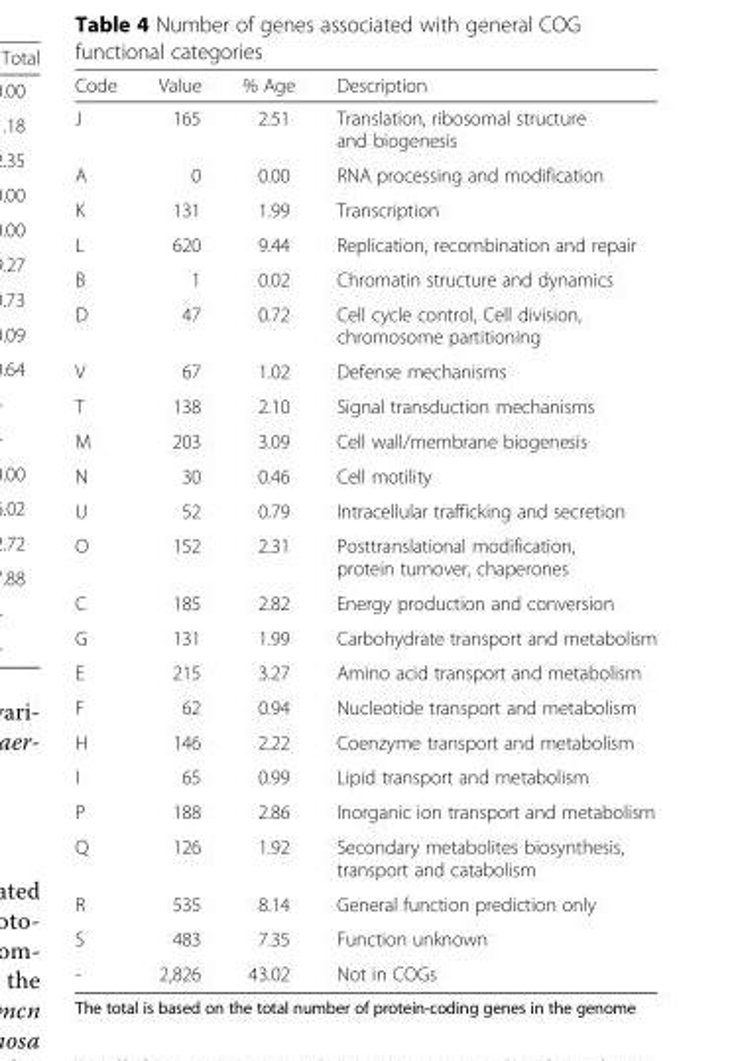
<table><thead><tr><td>Code</td><td>Value</td><td>% Age</td><td>Description</td></tr></thead><tbody><tr><td>J</td><td>165</td><td>2.51</td><td>Translation, ribosomal structure and biogenesis</td></tr><tr><td>A</td><td>0</td><td>0.00</td><td>RNA processing and modification</td></tr><tr><td>K</td><td>131</td><td>1.99</td><td>Transcription</td></tr><tr><td>L</td><td>620</td><td>9.44</td><td>Replication, recombination and repair</td></tr><tr><td>B</td><td>1</td><td>0.02</td><td>Chromatin structure and dynamics</td></tr><tr><td>D</td><td>47</td><td>0.72</td><td>Cell cycle control, Cell division, chromosome partitioning</td></tr><tr><td>V</td><td>67</td><td>1.02</td><td>Defense mechanisms</td></tr><tr><td>T</td><td>138</td><td>2.10</td><td>Signal transduction mechanisms</td></tr><tr><td>M</td><td>203</td><td>3.09</td><td>Cell wall/membrane biogenesis</td></tr><tr><td>N</td><td>30</td><td>0.46</td><td>Cell motility</td></tr><tr><td>U</td><td>52</td><td>0.79</td><td>Intracellular trafficking and secretion</td></tr><tr><td>O</td><td>152</td><td>2.31</td><td>Posttranslational modification, protein turnover, chaperones</td></tr><tr><td>C</td><td>185</td><td>2.82</td><td>Energy production and conversion</td></tr><tr><td>G</td><td>131</td><td>1.99</td><td>Carbohydrate transport and metabolism</td></tr><tr><td>E</td><td>215</td><td>3.27</td><td>Amino acid transport and metabolism</td></tr><tr><td>F</td><td>62</td><td>0.94</td><td>Nucleotide transport and metabolism</td></tr><tr><td>H</td><td>146</td><td>2.22</td><td>Coenzyme transport and metabolism</td></tr><tr><td>I</td><td>65</td><td>0.99</td><td>Lipid transport and metabolism</td></tr><tr><td>P</td><td>188</td><td>2.86</td><td>Inorganic ion transport and metabolism</td></tr><tr><td>Q</td><td>126</td><td>1.92</td><td>Secondary metabolites biosynthesis, transport and catabolism</td></tr><tr><td>R</td><td>535</td><td>8.14</td><td>General function prediction only</td></tr><tr><td>S</td><td>483</td><td>7.35</td><td>Function unknown</td></tr><tr><td>-</td><td>2,826</td><td>43.02</td><td>Not in COGs</td></tr></tbody></table>